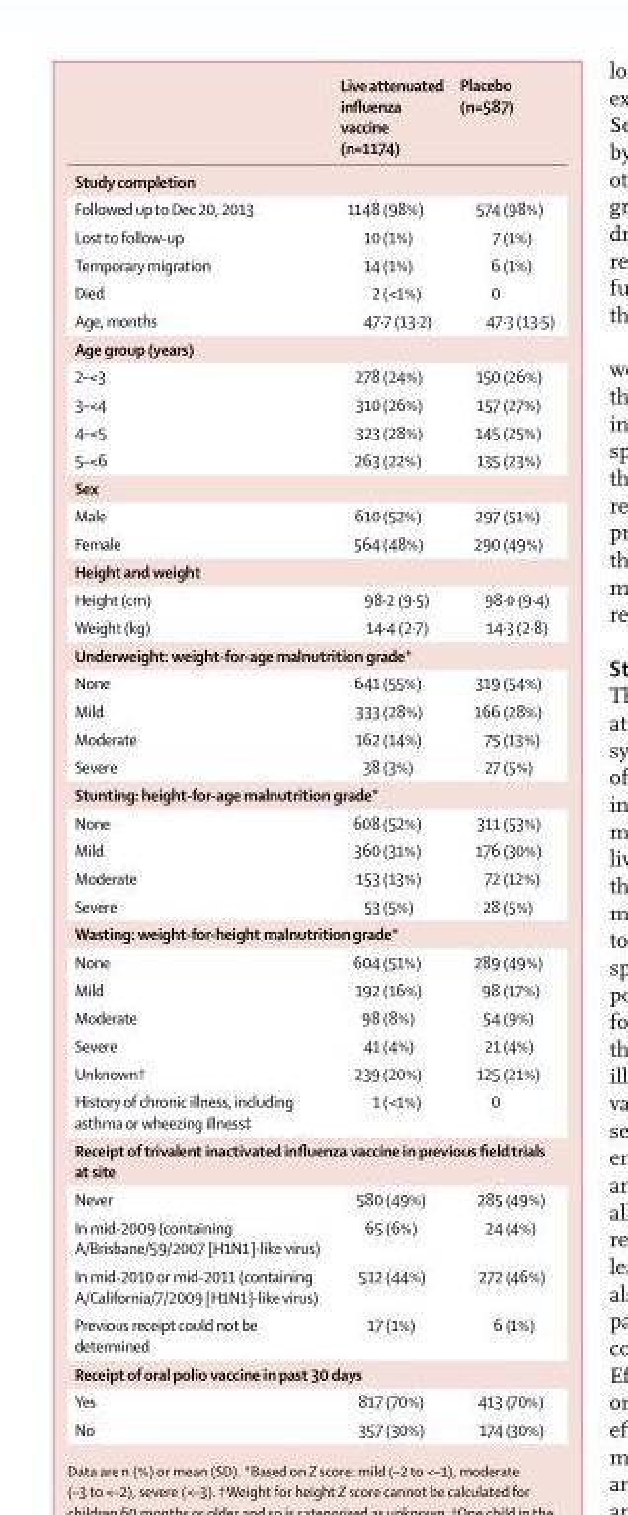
<table><thead><tr><td></td><td>Live attenuated infl uenza vaccine (n=1174)</td><td>Placebo (n=587)</td></tr></thead><tbody><tr><td colspan="3">Study completion</td></tr><tr><td>Followed up to Dec 20, 2013</td><td>1148 (98%)</td><td>574 (98%)</td></tr><tr><td>Lost to follow-up</td><td>10 (1%)</td><td>7 (1%)</td></tr><tr><td>Temporary migration</td><td>14 (1%)</td><td>6 (1%)</td></tr><tr><td>Died</td><td>2 (&lt;1%)</td><td>0</td></tr><tr><td>Age, months</td><td>47·7 (13·2)</td><td>47·3 (13·5)</td></tr><tr><td colspan="3">Age group (years)</td></tr><tr><td>2–&lt;3</td><td>278 (24%)</td><td>150 (26%)</td></tr><tr><td>3–&lt;4</td><td>310 (26%)</td><td>157 (27%)</td></tr><tr><td>4–&lt;5</td><td>323 (28%)</td><td>145 (25%)</td></tr><tr><td>5–&lt;6</td><td>263 (22%)</td><td>135 (23%)</td></tr><tr><td colspan="3">Sex</td></tr><tr><td>Male</td><td>610 (52%)</td><td>297 (51%)</td></tr><tr><td>Female</td><td>564 (48%)</td><td>290 (49%)</td></tr><tr><td colspan="3">Height and weight</td></tr><tr><td>Height (cm)</td><td>98·2 (9·5)</td><td>98·0 (9·4)</td></tr><tr><td>Weight (kg)</td><td>14·4 (2·7)</td><td>14·3 (2·8)</td></tr><tr><td colspan="3">Underweight: weight-for-age malnutrition grade*</td></tr><tr><td>None</td><td>641 (55%)</td><td>319 (54%)</td></tr><tr><td>Mild</td><td>333 (28%)</td><td>166 (28%)</td></tr><tr><td>Moderate</td><td>162 (14%)</td><td>75 (13%)</td></tr><tr><td>Severe</td><td>38 (3%)</td><td>27 (5%)</td></tr><tr><td colspan="3">Stunting: height-for-age malnutrition grade*</td></tr><tr><td>None</td><td>608 (52%)</td><td>311 (53%)</td></tr><tr><td>Mild</td><td>360 (31%)</td><td>176 (30%)</td></tr><tr><td>Moderate</td><td>153 (13%)</td><td>72 (12%)</td></tr><tr><td>Severe</td><td>53 (5%)</td><td>28 (5%)</td></tr><tr><td colspan="3">Wasting: weight-for-height malnutrition grade*</td></tr><tr><td>None</td><td>604 (51%)</td><td>289 (49%)</td></tr><tr><td>Mild</td><td>192 (16%)</td><td>98 (17%)</td></tr><tr><td>Moderate</td><td>98 (8%)</td><td>54 (9%)</td></tr><tr><td>Severe</td><td>41 (4%)</td><td>21 (4%)</td></tr><tr><td>Unknown†</td><td>239 (20%)</td><td>125 (21%)</td></tr><tr><td>History of chronic illness, including asthma or wheezing illness‡</td><td>1 (&lt;1%)</td><td>0</td></tr><tr><td colspan="3">Receipt of trivalent inactivated infl uenza vaccine in previous fi eld trials at site</td></tr><tr><td>Never</td><td>580 (49%)</td><td>285 (49%)</td></tr><tr><td>In mid-2009 (containing A/Brisbane/59/2007 [H1N1]-like virus)</td><td>65 (6%)</td><td>24 (4%)</td></tr><tr><td>In mid-2010 or mid-2011 (containing A/California/7/2009 [H1N1]-like virus)</td><td>512 (44%)</td><td>272 (46%)</td></tr><tr><td>Previous receipt could not be determined</td><td>17 (1%)</td><td>6 (1%)</td></tr><tr><td colspan="3">Receipt of oral polio vaccine in past 30 days</td></tr><tr><td>Yes</td><td>817 (70%)</td><td>413 (70%)</td></tr><tr><td>No</td><td>357 (30%)</td><td>174 (30%)</td></tr></tbody></table>